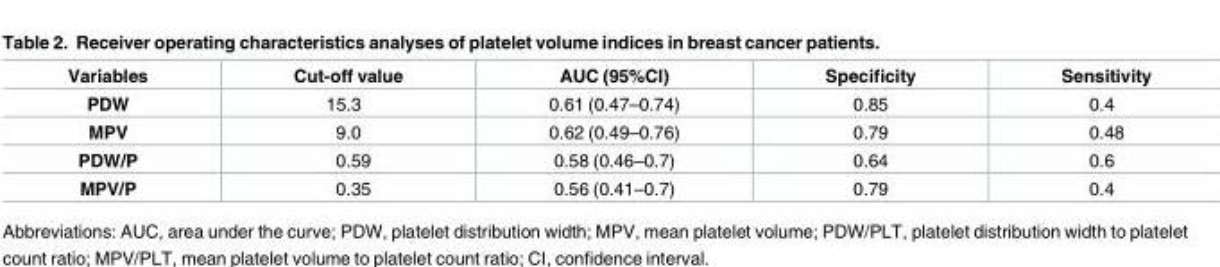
<table><thead><tr><td>Variables</td><td>Cut-off value</td><td>AUC (95%CI)</td><td>Specificity</td><td>Sensitivity</td></tr></thead><tbody><tr><td>PDW</td><td>15.3</td><td>0.61 (0.47–0.74)</td><td>0.85</td><td>0.4</td></tr><tr><td>MPV</td><td>9.0</td><td>0.62 (0.49–0.76)</td><td>0.79</td><td>0.48</td></tr><tr><td>PDW/P</td><td>0.59</td><td>0.58 (0.46–0.7)</td><td>0.64</td><td>0.6</td></tr><tr><td>MPV/P</td><td>0.35</td><td>0.56 (0.41–0.7)</td><td>0.79</td><td>0.4</td></tr></tbody></table>